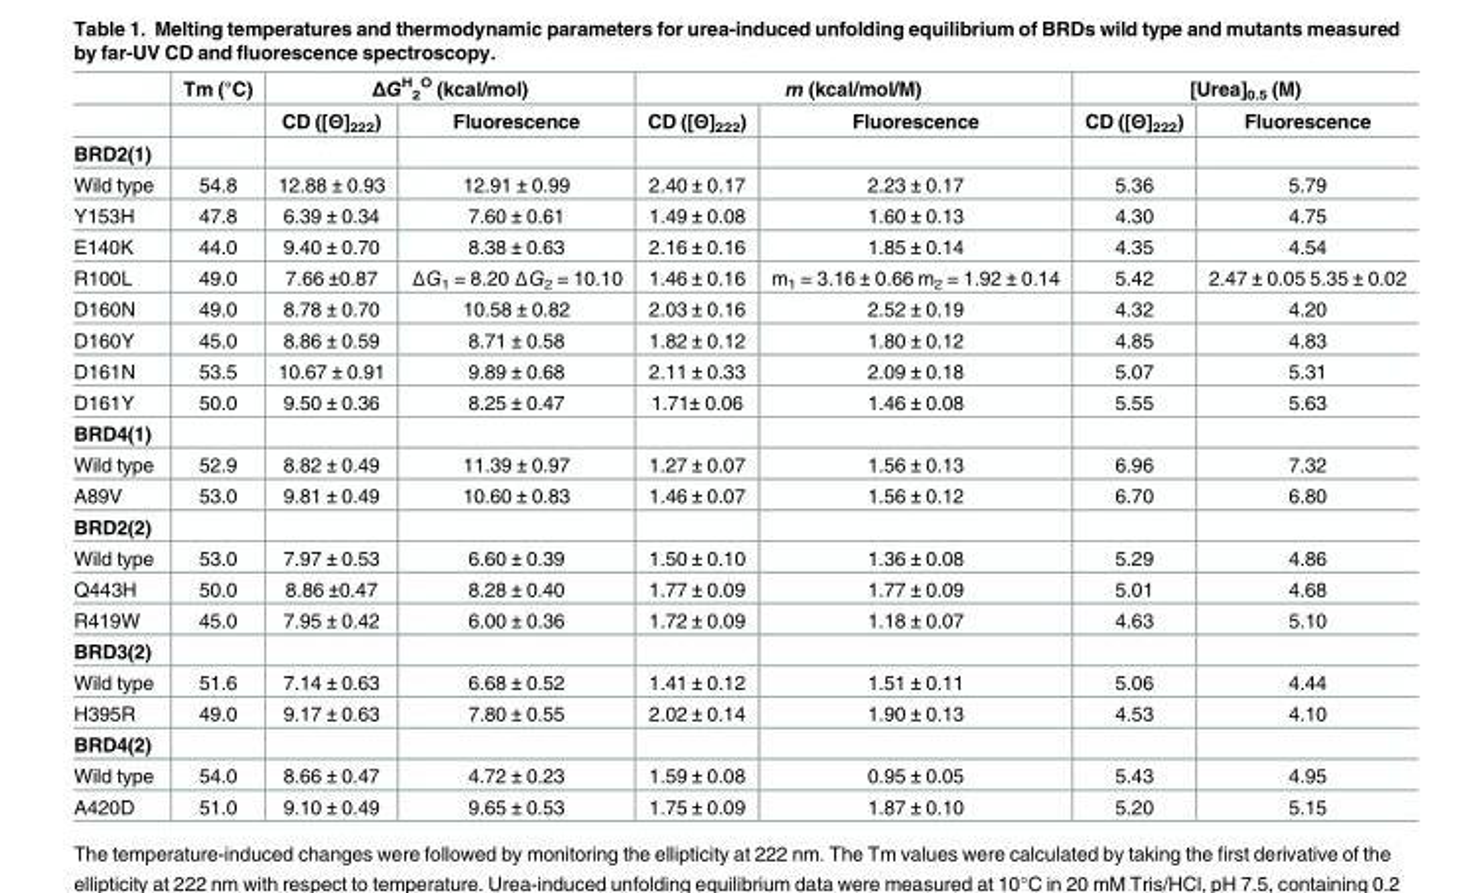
<table><thead><tr><td rowspan="2"></td><td rowspan="2">Tm (°C)</td><td colspan="2">ΔG<sup>H</sup> <sub>2</sub> <sup>O</sup> (kcal/mol)</td><td colspan="2">m (kcal/mol/M)</td><td colspan="2">[Urea]<sub>0.5</sub> (M)</td></tr><tr><td>CD ([Θ]<sub>222</sub>)</td><td>Fluorescence</td><td>CD ([Θ]<sub>222</sub>)</td><td>Fluorescence</td><td>CD ([Θ]<sub>222</sub>)</td><td>Fluorescence</td></tr></thead><tbody><tr><td colspan="8">BRD2(1)</td></tr><tr><td>Wild type</td><td>54.8</td><td>12.88 ± 0.93</td><td>12.91 ± 0.99</td><td>2.40 ± 0.17</td><td>2.23 ± 0.17</td><td>5.36</td><td>5.79</td></tr><tr><td>Y153H</td><td>47.8</td><td>6.39 ± 0.34</td><td>7.60 ± 0.61</td><td>1.49 ± 0.08</td><td>1.60 ± 0.13</td><td>4.30</td><td>4.75</td></tr><tr><td>E140K</td><td>44.0</td><td>9.40 ± 0.70</td><td>8.38 ± 0.63</td><td>2.16 ± 0.16</td><td>1.85 ± 0.14</td><td>4.35</td><td>4.54</td></tr><tr><td>R100L</td><td>49.0</td><td>7.66 ±0.87</td><td>ΔG1 = 8.20 ΔG2 = 10.10</td><td>1.46 ± 0.16</td><td>m<sub>1</sub> = 3.16 ± 0.66 m<sub>2</sub> = 1.92 ± 0.14</td><td>5.42</td><td>2.47 ± 0.05 5.35 ± 0.02</td></tr><tr><td>D160N</td><td>49.0</td><td>8.78 ± 0.70</td><td>10.58 ± 0.82</td><td>2.03 ± 0.16</td><td>2.52 ± 0.19</td><td>4.32</td><td>4.20</td></tr><tr><td>D160Y</td><td>45.0</td><td>8.86 ± 0.59</td><td>8.71 ± 0.58</td><td>1.82 ± 0.12</td><td>1.80 ± 0.12</td><td>4.85</td><td>4.83</td></tr><tr><td>D161N</td><td>53.5</td><td>10.67 ± 0.91</td><td>9.89 ± 0.68</td><td>2.11 ± 0.33</td><td>2.09 ± 0.18</td><td>5.07</td><td>5.31</td></tr><tr><td>D161Y</td><td>50.0</td><td>9.50 ± 0.36</td><td>8.25 ± 0.47</td><td>1.71± 0.06</td><td>1.46 ± 0.08</td><td>5.55</td><td>5.63</td></tr><tr><td colspan="8">BRD4(1)</td></tr><tr><td>Wild type</td><td>52.9</td><td>8.82 ± 0.49</td><td>11.39 ± 0.97</td><td>1.27 ± 0.07</td><td>1.56 ± 0.13</td><td>6.96</td><td>7.32</td></tr><tr><td>A89V</td><td>53.0</td><td>9.81 ± 0.49</td><td>10.60 ± 0.83</td><td>1.46 ± 0.07</td><td>1.56 ± 0.12</td><td>6.70</td><td>6.80</td></tr><tr><td colspan="8">BRD2(2)</td></tr><tr><td>Wild type</td><td>53.0</td><td>7.97 ± 0.53</td><td>6.60 ± 0.39</td><td>1.50 ± 0.10</td><td>1.36 ± 0.08</td><td>5.29</td><td>4.86</td></tr><tr><td>Q443H</td><td>50.0</td><td>8.86 ±0.47</td><td>8.28 ± 0.40</td><td>1.77 ± 0.09</td><td>1.77 ± 0.09</td><td>5.01</td><td>4.68</td></tr><tr><td>R419W</td><td>45.0</td><td>7.95 ± 0.42</td><td>6.00 ± 0.36</td><td>1.72 ± 0.09</td><td>1.18 ± 0.07</td><td>4.63</td><td>5.10</td></tr><tr><td colspan="8">BRD3(2)</td></tr><tr><td>Wild type</td><td>51.6</td><td>7.14 ± 0.63</td><td>6.68 ± 0.52</td><td>1.41 ± 0.12</td><td>1.51 ± 0.11</td><td>5.06</td><td>4.44</td></tr><tr><td>H395R</td><td>49.0</td><td>9.17 ± 0.63</td><td>7.80 ± 0.55</td><td>2.02 ± 0.14</td><td>1.90 ± 0.13</td><td>4.53</td><td>4.10</td></tr><tr><td colspan="8">BRD4(2)</td></tr><tr><td>Wild type</td><td>54.0</td><td>8.66 ± 0.47</td><td>4.72 ± 0.23</td><td>1.59 ± 0.08</td><td>0.95 ± 0.05</td><td>5.43</td><td>4.95</td></tr><tr><td>A420D</td><td>51.0</td><td>9.10 ± 0.49</td><td>9.65 ± 0.53</td><td>1.75 ± 0.09</td><td>1.87 ± 0.10</td><td>5.20</td><td>5.15</td></tr></tbody></table>